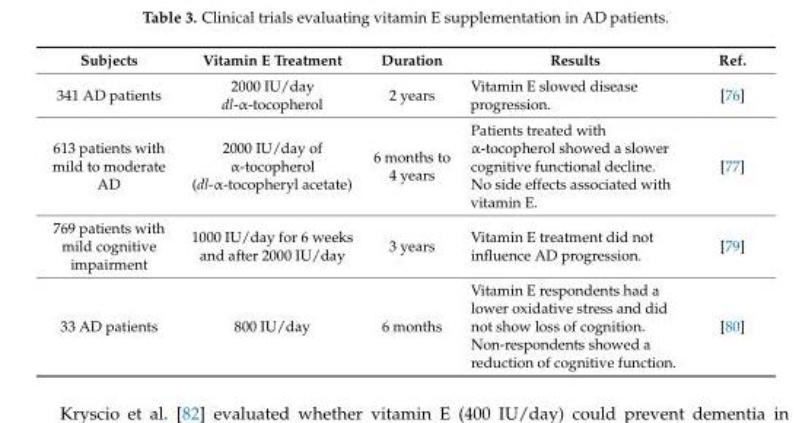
<table><thead><tr><td>Subjects</td><td>Vitamin E Treatment</td><td>Duration</td><td>Results</td><td>Ref.</td></tr></thead><tbody><tr><td>341 AD patients</td><td>2000 IU/day dl-α-tocopherol</td><td>2 years</td><td>Vitamin E slowed disease progression.</td><td>[76]</td></tr><tr><td>613 patients with mild to moderate AD</td><td>2000 IU/day of α-tocopherol (dl-α-tocopheryl acetate)</td><td>6 months to 4 years</td><td>Patients treated with α-tocopherol showed a slower cognitive functional decline. No side effects associated with vitamin E.</td><td>[77]</td></tr><tr><td>769 patients with mild cognitive impairment</td><td>1000 IU/day for 6 weeks and after 2000 IU/day</td><td>3 years</td><td>Vitamin E treatment did not influence AD progression.</td><td>[79]</td></tr><tr><td>33 AD patients</td><td>800 IU/day</td><td>6 months</td><td>Vitamin E respondents had a lower oxidative stress and did not show loss of cognition. Non-respondents showed a reduction of cognitive function.</td><td>[80]</td></tr></tbody></table>